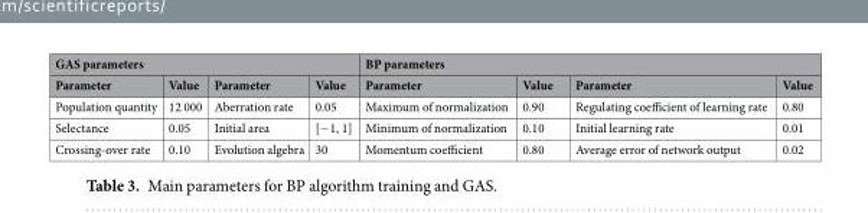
<table><thead><tr><td colspan="4">GAS parameters</td><td colspan="4">BP parameters</td></tr><tr><td>Parameter</td><td>Value</td><td>Parameter</td><td>Value</td><td>Parameter</td><td>Value</td><td>Parameter</td><td>Value</td></tr></thead><tbody><tr><td>Population quantity</td><td>12 000</td><td>Aberration rate</td><td>0.05</td><td>Maximum of normalization</td><td>0.90</td><td>Regulating coefficient of learning rate</td><td>0.80</td></tr><tr><td>Selectance</td><td>0.05</td><td>Initial area</td><td>[−1, 1]</td><td>Minimum of normalization</td><td>0.10</td><td>Initial learning rate</td><td>0.01</td></tr><tr><td>Crossing-over rate</td><td>0.10</td><td>Evolution algebra</td><td>30</td><td>Momentum coefficient</td><td>0.80</td><td>Average error of network output</td><td>0.02</td></tr></tbody></table>